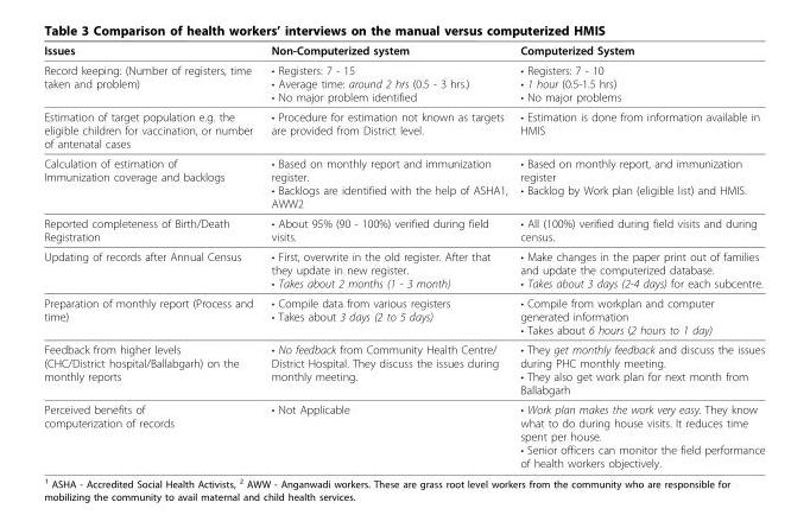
<table><thead><tr><td>Issues</td><td>Non-Computerized system</td><td>Computerized System</td></tr></thead><tbody><tr><td>Record keeping: (Number of registers, time taken and problem)</td><td>• Registers: 7 - 15 • Average time: around 2 hrs (0.5 - 3 hrs.) • No major problem identified</td><td>• Registers: 7 - 10 • 1 hour (0.5-1.5 hrs) • No major problems</td></tr><tr><td>Estimation of target population e.g. the eligible children for vaccination, or number of antenatal cases</td><td>• Procedure for estimation not known as targets are provided from District level.</td><td>• Estimation is done from information available in HMIS</td></tr><tr><td>Calculation of estimation of Immunization coverage and backlogs</td><td>• Based on monthly report and immunization register. • Backlogs are identified with the help of ASHA1, AWW2</td><td>• Based on monthly report, and immunization register • Backlog by Work plan (eligible list) and HMIS.</td></tr><tr><td>Reported completeness of Birth/Death Registration</td><td>• About 95% (90 - 100%) verified during field visits.</td><td>• All (100%) verified during field visits and during census.</td></tr><tr><td>Updating of records after Annual Census</td><td>• First, overwrite in the old register. After that they update in new register. • Takes about 2 months (1 - 3 month)</td><td>• Make changes in the paper print out of families and update the computerized database. • Takes about 3 days (2-4 days) for each subcentre.</td></tr><tr><td>Preparation of monthly report (Process and time)</td><td>• Compile data from various registers • Takes about 3 days (2 to 5 days)</td><td>• Compile from workplan and computer generated information • Takes about 6 hours (2 hours to 1 day)</td></tr><tr><td>Feedback from higher levels (CHC/District hospital/Ballabgarh) on the monthly reports</td><td>• No feedback from Community Health Centre/ District Hospital. They discuss the issues during monthly meeting.</td><td>• They get monthly feedback and discuss the issues during PHC monthly meeting. • They also get work plan for next month from Ballabgarh</td></tr><tr><td>Perceived benefits of computerization of records</td><td>• Not Applicable</td><td>• Work plan makes the work very easy. They know what to do during house visits. It reduces time spent per house. • Senior officers can monitor the field performance of health workers objectively.</td></tr></tbody></table>